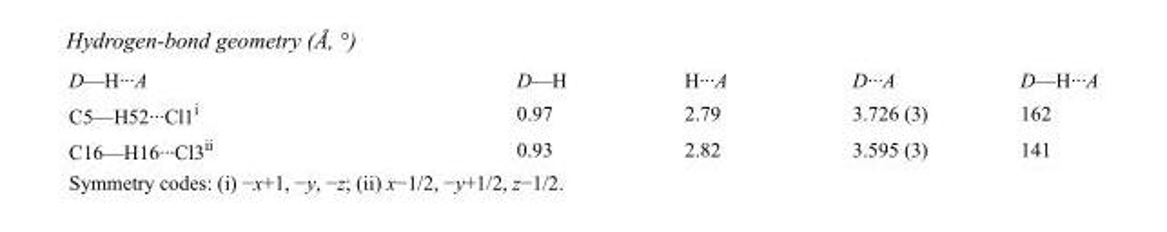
<table><tbody><tr><td>D—H···A</td><td>D—H</td><td>H···A</td><td>D···A</td><td>D—H···A</td></tr><tr><td>C5—H52···Cl1<sup>i</sup></td><td>0.97</td><td>2.79</td><td>3.726 (3)</td><td>162</td></tr><tr><td>C16—H16···Cl3<sup>ii</sup></td><td>0.93</td><td>2.82</td><td>3.595 (3)</td><td>141</td></tr></tbody></table>